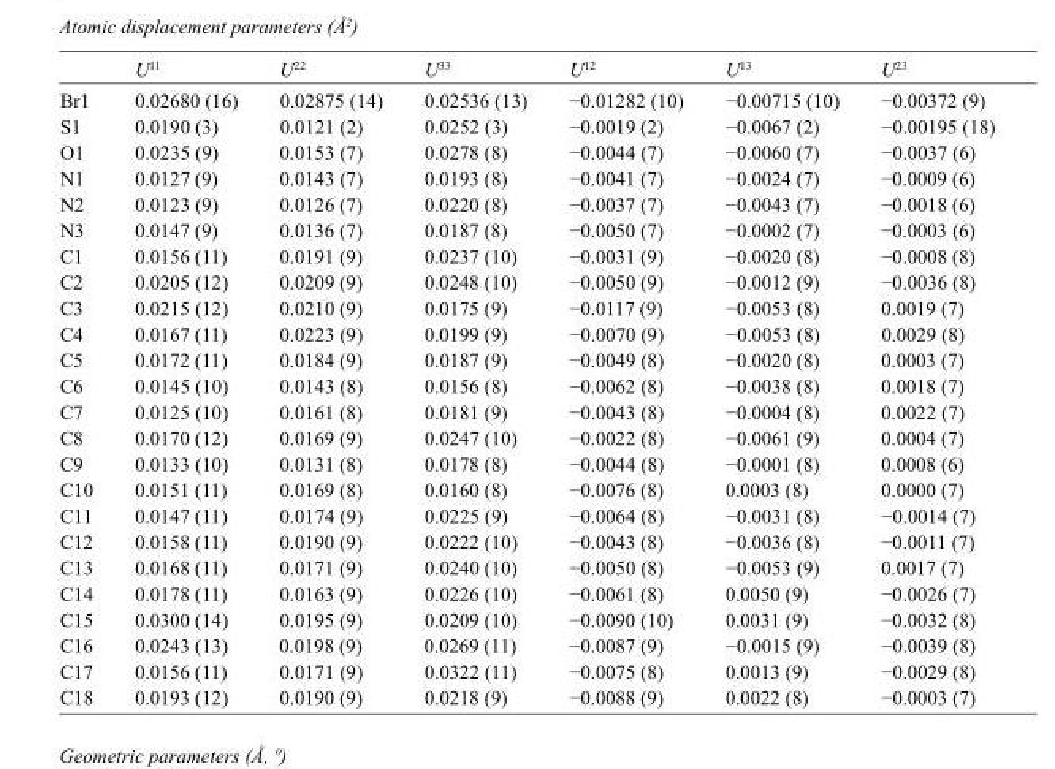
<table><thead><tr><td></td><td>U<sup>11</sup></td><td>U<sup>22</sup></td><td>U<sup>33</sup></td><td>U<sup>12</sup></td><td>U<sup>13</sup></td><td>U<sup>23</sup></td></tr></thead><tbody><tr><td>Br1</td><td>0.02680 (16)</td><td>0.02875 (14)</td><td>0.02536 (13)</td><td>−0.01282 (10)</td><td>−0.00715 (10)</td><td>−0.00372 (9)</td></tr><tr><td>S1</td><td>0.0190 (3)</td><td>0.0121 (2)</td><td>0.0252 (3)</td><td>−0.0019 (2)</td><td>−0.0067 (2)</td><td>−0.00195 (18)</td></tr><tr><td>O1</td><td>0.0235 (9)</td><td>0.0153 (7)</td><td>0.0278 (8)</td><td>−0.0044 (7)</td><td>−0.0060 (7)</td><td>−0.0037 (6)</td></tr><tr><td>N1</td><td>0.0127 (9)</td><td>0.0143 (7)</td><td>0.0193 (8)</td><td>−0.0041 (7)</td><td>−0.0024 (7)</td><td>−0.0009 (6)</td></tr><tr><td>N2</td><td>0.0123 (9)</td><td>0.0126 (7)</td><td>0.0220 (8)</td><td>−0.0037 (7)</td><td>−0.0043 (7)</td><td>−0.0018 (6)</td></tr><tr><td>N3</td><td>0.0147 (9)</td><td>0.0136 (7)</td><td>0.0187 (8)</td><td>−0.0050 (7)</td><td>−0.0002 (7)</td><td>−0.0003 (6)</td></tr><tr><td>C1</td><td>0.0156 (11)</td><td>0.0191 (9)</td><td>0.0237 (10)</td><td>−0.0031 (9)</td><td>−0.0020 (8)</td><td>−0.0008 (8)</td></tr><tr><td>C2</td><td>0.0205 (12)</td><td>0.0209 (9)</td><td>0.0248 (10)</td><td>−0.0050 (9)</td><td>−0.0012 (9)</td><td>−0.0036 (8)</td></tr><tr><td>C3</td><td>0.0215 (12)</td><td>0.0210 (9)</td><td>0.0175 (9)</td><td>−0.0117 (9)</td><td>−0.0053 (8)</td><td>0.0019 (7)</td></tr><tr><td>C4</td><td>0.0167 (11)</td><td>0.0223 (9)</td><td>0.0199 (9)</td><td>−0.0070 (9)</td><td>−0.0053 (8)</td><td>0.0029 (8)</td></tr><tr><td>C5</td><td>0.0172 (11)</td><td>0.0184 (9)</td><td>0.0187 (9)</td><td>−0.0049 (8)</td><td>−0.0020 (8)</td><td>0.0003 (7)</td></tr><tr><td>C6</td><td>0.0145 (10)</td><td>0.0143 (8)</td><td>0.0156 (8)</td><td>−0.0062 (8)</td><td>−0.0038 (8)</td><td>0.0018 (7)</td></tr><tr><td>C7</td><td>0.0125 (10)</td><td>0.0161 (8)</td><td>0.0181 (9)</td><td>−0.0043 (8)</td><td>−0.0004 (8)</td><td>0.0022 (7)</td></tr><tr><td>C8</td><td>0.0170 (12)</td><td>0.0169 (9)</td><td>0.0247 (10)</td><td>−0.0022 (8)</td><td>−0.0061 (9)</td><td>0.0004 (7)</td></tr><tr><td>C9</td><td>0.0133 (10)</td><td>0.0131 (8)</td><td>0.0178 (8)</td><td>−0.0044 (8)</td><td>−0.0001 (8)</td><td>0.0008 (6)</td></tr><tr><td>C10</td><td>0.0151 (11)</td><td>0.0169 (8)</td><td>0.0160 (8)</td><td>−0.0076 (8)</td><td>0.0003 (8)</td><td>0.0000 (7)</td></tr><tr><td>C11</td><td>0.0147 (11)</td><td>0.0174 (9)</td><td>0.0225 (9)</td><td>−0.0064 (8)</td><td>−0.0031 (8)</td><td>−0.0014 (7)</td></tr><tr><td>C12</td><td>0.0158 (11)</td><td>0.0190 (9)</td><td>0.0222 (10)</td><td>−0.0043 (8)</td><td>−0.0036 (8)</td><td>−0.0011 (7)</td></tr><tr><td>C13</td><td>0.0168 (11)</td><td>0.0171 (9)</td><td>0.0240 (10)</td><td>−0.0050 (8)</td><td>−0.0053 (9)</td><td>0.0017 (7)</td></tr><tr><td>C14</td><td>0.0178 (11)</td><td>0.0163 (9)</td><td>0.0226 (10)</td><td>−0.0061 (8)</td><td>0.0050 (9)</td><td>−0.0026 (7)</td></tr><tr><td>C15</td><td>0.0300 (14)</td><td>0.0195 (9)</td><td>0.0209 (10)</td><td>−0.0090 (10)</td><td>0.0031 (9)</td><td>−0.0032 (8)</td></tr><tr><td>C16</td><td>0.0243 (13)</td><td>0.0198 (9)</td><td>0.0269 (11)</td><td>−0.0087 (9)</td><td>−0.0015 (9)</td><td>−0.0039 (8)</td></tr><tr><td>C17</td><td>0.0156 (11)</td><td>0.0171 (9)</td><td>0.0322 (11)</td><td>−0.0075 (8)</td><td>0.0013 (9)</td><td>−0.0029 (8)</td></tr><tr><td>C18</td><td>0.0193 (12)</td><td>0.0190 (9)</td><td>0.0218 (9)</td><td>−0.0088 (9)</td><td>0.0022 (8)</td><td>−0.0003 (7)</td></tr></tbody></table>